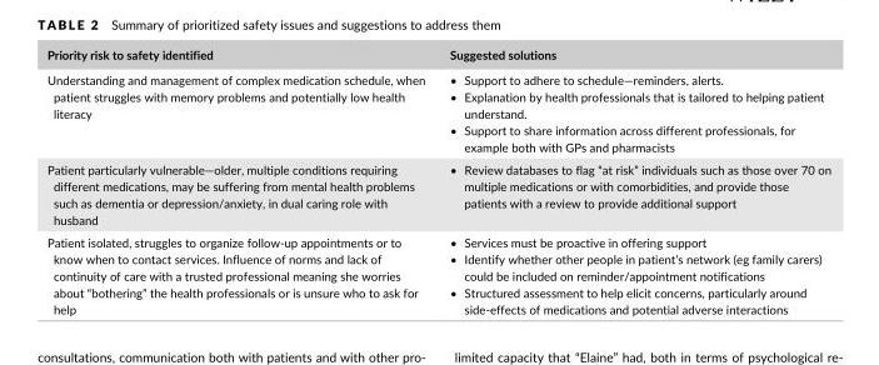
<table><thead><tr><td>Priority risk to safety identified</td><td>Suggested solutions</td></tr></thead><tbody><tr><td>Understanding and management of complex medication schedule, when patient struggles with memory problems and potentially low health literacy</td><td>• Support to adhere to schedule—reminders, alerts. • Explanation by health professionals that is tailored to helping patient understand. • Support to share information across different professionals, for example both with GPs and pharmacists</td></tr><tr><td>Patient particularly vulnerable—older, multiple conditions requiring different medications, may be suffering from mental health problems such as dementia or depression/anxiety, in dual caring role with husband</td><td>• Review databases to flag “at risk” individuals such as those over 70 on multiple medications or with comorbidities, and provide those patients with a review to provide additional support</td></tr><tr><td>Patient isolated, struggles to organize follow- up appointments or to know when to contact services. Influence of norms and lack of continuity of care with a trusted professional meaning she worries about “bothering” the health professionals or is unsure who to ask for help</td><td>• Services must be proactive in offering support • Identify whether other people in patient’s network (eg family carers) could be included on reminder/appointment notifications • Structured assessment to help elicit concerns, particularly around side-effects of medications and potential adverse interactions</td></tr></tbody></table>